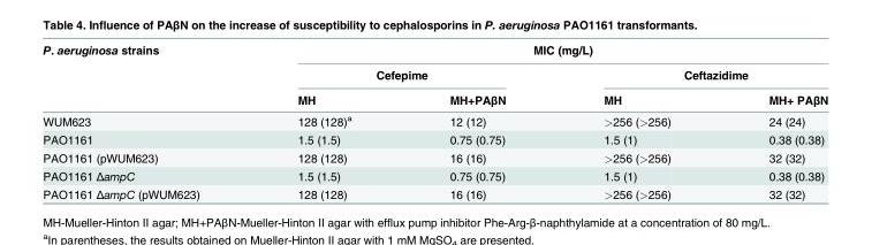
<table><thead><tr><td rowspan="3">P. aeruginosa strains</td><td colspan="4">MIC (mg/L)</td></tr><tr><td colspan="2">Cefepime</td><td colspan="2">Ceftazidime</td></tr><tr><td>MH</td><td>MH+PAβN</td><td>MH</td><td>MH+ PAβN</td></tr></thead><tbody><tr><td>WUM623</td><td>128 (128)<sup>a</sup></td><td>12 (12)</td><td>&gt;256 (&gt;256)</td><td>24 (24)</td></tr><tr><td>PAO1161</td><td>1.5 (1.5)</td><td>0.75 (0.75)</td><td>1.5 (1)</td><td>0.38 (0.38)</td></tr><tr><td>PAO1161 (pWUM623)</td><td>128 (128)</td><td>16 (16)</td><td>&gt;256 (&gt;256)</td><td>32 (32)</td></tr><tr><td>PAO1161 ΔampC</td><td>1.5 (1.5)</td><td>0.75 (0.75)</td><td>1.5 (1)</td><td>0.38 (0.38)</td></tr><tr><td>PAO1161 ΔampC (pWUM623)</td><td>128 (128)</td><td>16 (16)</td><td>&gt;256 (&gt;256)</td><td>32 (32)</td></tr></tbody></table>